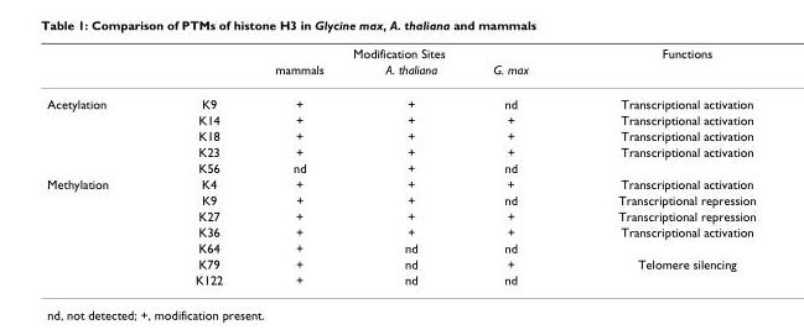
<table><thead><tr><td rowspan="2"></td><td rowspan="2"></td><td colspan="3">Modification Sites</td><td rowspan="2">Functions</td></tr><tr><td>mammals</td><td>A. thaliana</td><td>G. max</td></tr></thead><tbody><tr><td rowspan="5">Acetylation</td><td>K9</td><td>+</td><td>+</td><td>nd</td><td>Transcriptional activation</td></tr><tr><td>K14</td><td>+</td><td>+</td><td>+</td><td>Transcriptional activation</td></tr><tr><td>K18</td><td>+</td><td>+</td><td>+</td><td>Transcriptional activation</td></tr><tr><td>K23</td><td>+</td><td>+</td><td>+</td><td>Transcriptional activation</td></tr><tr><td>K56</td><td>nd</td><td>+</td><td>nd</td><td></td></tr><tr><td rowspan="7">Methylation</td><td>K4</td><td>+</td><td>+</td><td>+</td><td>Transcriptional activation</td></tr><tr><td>K9</td><td>+</td><td>+</td><td>nd</td><td>Transcriptional repression</td></tr><tr><td>K27</td><td>+</td><td>+</td><td>+</td><td>Transcriptional repression</td></tr><tr><td>K36</td><td>+</td><td>+</td><td>+</td><td>Transcriptional activation</td></tr><tr><td>K64</td><td>+</td><td>nd</td><td>nd</td><td></td></tr><tr><td>K79</td><td>+</td><td>nd</td><td>+</td><td>Telomere silencing</td></tr><tr><td>K122</td><td>+</td><td>nd</td><td>nd</td><td></td></tr></tbody></table>